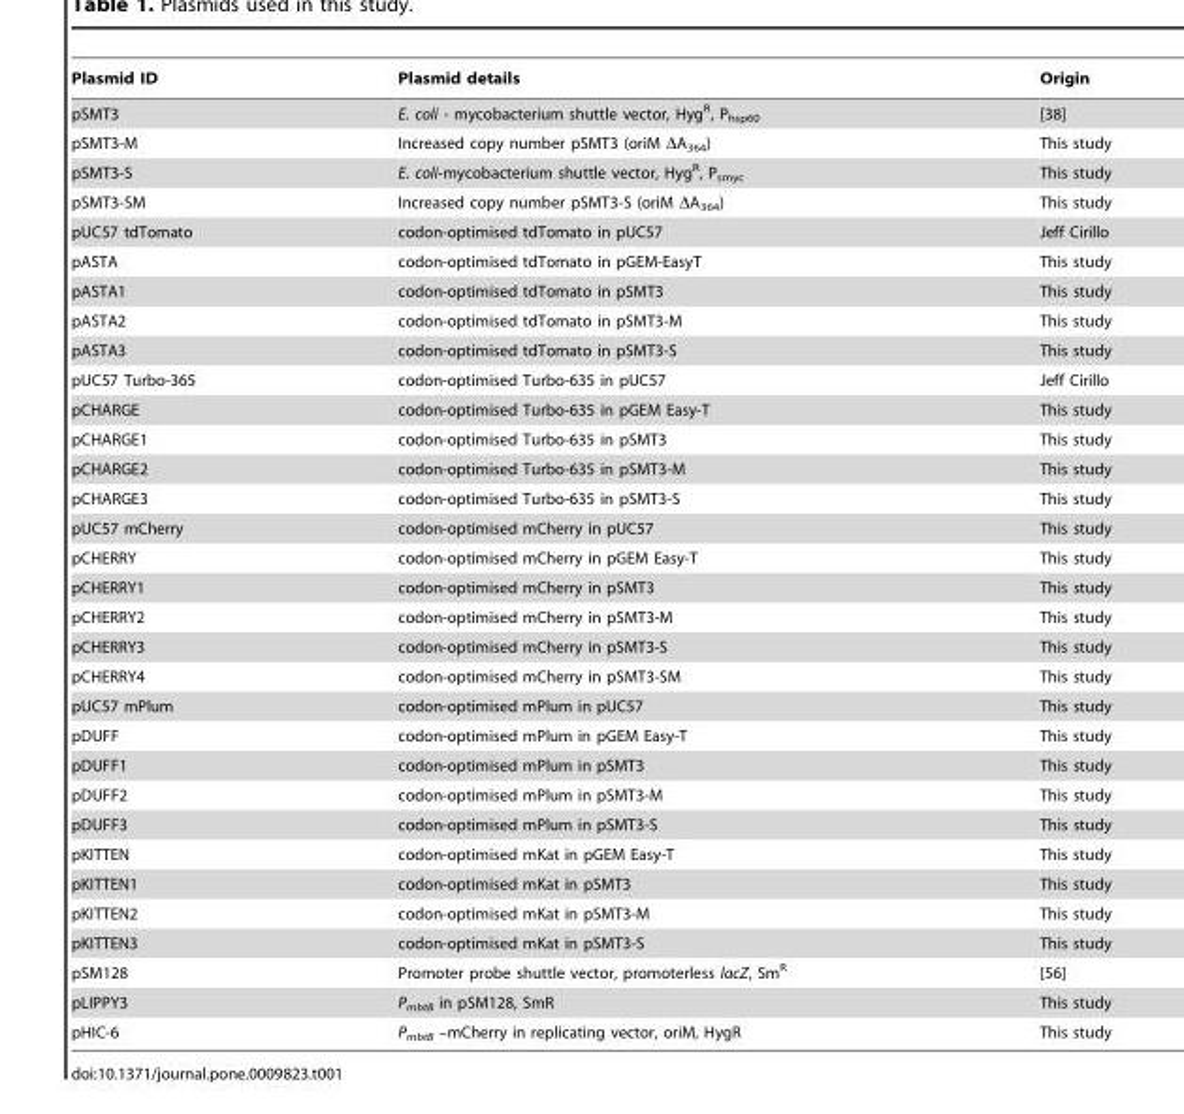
<table><thead><tr><td>Plasmid ID</td><td>Plasmid details</td><td>Origin</td></tr></thead><tbody><tr><td>pSMT3</td><td>E. coli - mycobacterium shuttle vector, Hyg<sup>R</sup>, P<sub>hsp60</sub></td><td>[38]</td></tr><tr><td>pSMT3-M</td><td>Increased copy number pSMT3 (oriM ΔA<sub>364</sub>)</td><td>This study</td></tr><tr><td>pSMT3-S</td><td>E. coli-mycobacterium shuttle vector, Hyg<sup>R</sup>, P<sub>smyc</sub></td><td>This study</td></tr><tr><td>pSMT3-SM</td><td>Increased copy number pSMT3-S (oriM ΔA<sub>364</sub>)</td><td>This study</td></tr><tr><td>pUC57 tdTomato</td><td>codon-optimised tdTomato in pUC57</td><td>Jeff Cirillo</td></tr><tr><td>pASTA</td><td>codon-optimised tdTomato in pGEM-EasyT</td><td>This study</td></tr><tr><td>pASTA1</td><td>codon-optimised tdTomato in pSMT3</td><td>This study</td></tr><tr><td>pASTA2</td><td>codon-optimised tdTomato in pSMT3-M</td><td>This study</td></tr><tr><td>pASTA3</td><td>codon-optimised tdTomato in pSMT3-S</td><td>This study</td></tr><tr><td>pUC57 Turbo-365</td><td>codon-optimised Turbo-635 in pUC57</td><td>Jeff Cirillo</td></tr><tr><td>pCHARGE</td><td>codon-optimised Turbo-635 in pGEM Easy-T</td><td>This study</td></tr><tr><td>pCHARGE1</td><td>codon-optimised Turbo-635 in pSMT3</td><td>This study</td></tr><tr><td>pCHARGE2</td><td>codon-optimised Turbo-635 in pSMT3-M</td><td>This study</td></tr><tr><td>pCHARGE3</td><td>codon-optimised Turbo-635 in pSMT3-S</td><td>This study</td></tr><tr><td>pUC57 mCherry</td><td>codon-optimised mCherry in pUC57</td><td>This study</td></tr><tr><td>pCHERRY</td><td>codon-optimised mCherry in pGEM Easy-T</td><td>This study</td></tr><tr><td>pCHERRY1</td><td>codon-optimised mCherry in pSMT3</td><td>This study</td></tr><tr><td>pCHERRY2</td><td>codon-optimised mCherry in pSMT3-M</td><td>This study</td></tr><tr><td>pCHERRY3</td><td>codon-optimised mCherry in pSMT3-S</td><td>This study</td></tr><tr><td>pCHERRY4</td><td>codon-optimised mCherry in pSMT3-SM</td><td>This study</td></tr><tr><td>pUC57 mPlum</td><td>codon-optimised mPlum in pUC57</td><td>This study</td></tr><tr><td>pDUFF</td><td>codon-optimised mPlum in pGEM Easy-T</td><td>This study</td></tr><tr><td>pDUFF1</td><td>codon-optimised mPlum in pSMT3</td><td>This study</td></tr><tr><td>pDUFF2</td><td>codon-optimised mPlum in pSMT3-M</td><td>This study</td></tr><tr><td>pDUFF3</td><td>codon-optimised mPlum in pSMT3-S</td><td>This study</td></tr><tr><td>pKITTEN</td><td>codon-optimised mKat in pGEM Easy-T</td><td>This study</td></tr><tr><td>pKITTEN1</td><td>codon-optimised mKat in pSMT3</td><td>This study</td></tr><tr><td>pKITTEN2</td><td>codon-optimised mKat in pSMT3-M</td><td>This study</td></tr><tr><td>pKITTEN3</td><td>codon-optimised mKat in pSMT3-S</td><td>This study</td></tr><tr><td>pSM128</td><td>Promoter probe shuttle vector, promoterless lacZ, Sm<sup>R</sup></td><td>[56]</td></tr><tr><td>pLIPPY3</td><td>P<sub>mbtB</sub> in pSM128, SmR</td><td>This study</td></tr><tr><td>pHIC-6</td><td>P<sub>mbtB</sub> –mCherry in replicating vector, oriM, HygR</td><td>This study</td></tr></tbody></table>